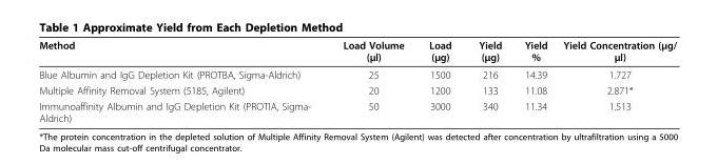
<table><thead><tr><td>Method</td><td>Load Volume (μl)</td><td>Load (μg)</td><td>Yield (μg)</td><td>Yield %</td><td>Yield Concentration (μg/ μl)</td></tr></thead><tbody><tr><td>Blue Albumin and IgG Depletion Kit (PROTBA, Sigma-Aldrich)</td><td>25</td><td>1500</td><td>216</td><td>14.39</td><td>1.727</td></tr><tr><td>Multiple Affinity Removal System (5185, Agilent)</td><td>20</td><td>1200</td><td>133</td><td>11.08</td><td>2.871*</td></tr><tr><td>Immunoaffinity Albumin and IgG Depletion Kit (PROTIA, Sigma- Aldrich)</td><td>50</td><td>3000</td><td>340</td><td>11.34</td><td>1.513</td></tr></tbody></table>